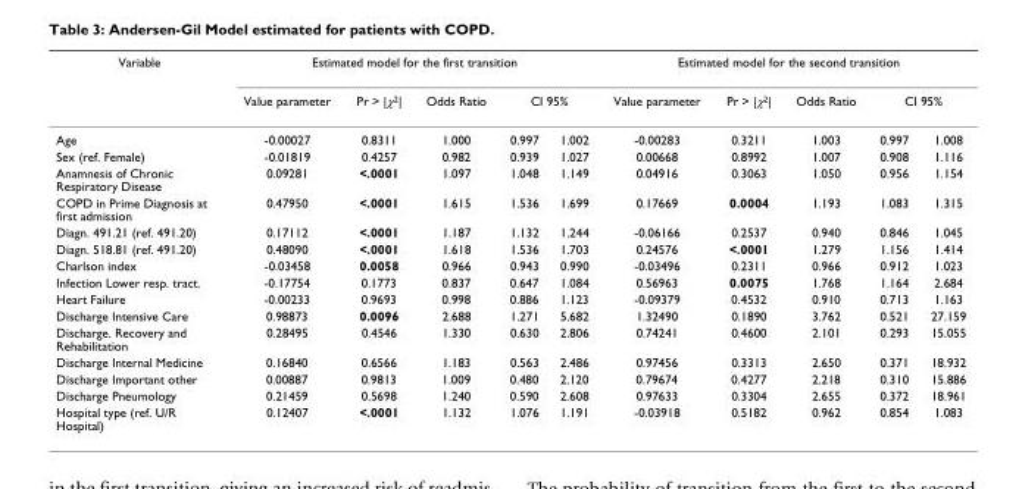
<table><thead><tr><td rowspan="3">Variable Age</td><td colspan="5">Estimated model for the first transition</td><td colspan="5">Estimated model for the second transition</td></tr><tr><td rowspan="2">Value parameter -0.00027</td><td rowspan="2">Pr &gt; |χ<sup>2</sup>| 0.8311</td><td rowspan="2">Odds Ratio 1.000</td><td colspan="2">CI 95%</td><td rowspan="2">Value parameter -0.00283</td><td rowspan="2">Pr &gt; |χ<sup>2</sup>| 0.3211</td><td rowspan="2">Odds Ratio 1.003</td><td colspan="2">CI 95%</td></tr><tr><td>0.997</td><td>1.002</td><td>0.997</td><td>1.008</td></tr></thead><tbody><tr><td>Sex (ref. Female)</td><td>-0.01819</td><td>0.4257</td><td>0.982</td><td>0.939</td><td>1.027</td><td>0.00668</td><td>0.8992</td><td>1.007</td><td>0.908</td><td>1.116</td></tr><tr><td>Anamnesis of Chronic Respiratory Disease</td><td>0.09281</td><td>&lt;.0001</td><td>1.097</td><td>1.048</td><td>1.149</td><td>0.04916</td><td>0.3063</td><td>1.050</td><td>0.956</td><td>1.154</td></tr><tr><td>COPD in Prime Diagnosis at first admission</td><td>0.47950</td><td>&lt;.0001</td><td>1.615</td><td>1.536</td><td>1.699</td><td>0.17669</td><td>0.0004</td><td>1.193</td><td>1.083</td><td>1.315</td></tr><tr><td>Diagn. 491.21 (ref. 491.20)</td><td>0.17112</td><td>&lt;.0001</td><td>1.187</td><td>1.132</td><td>1.244</td><td>-0.06166</td><td>0.2537</td><td>0.940</td><td>0.846</td><td>1.045</td></tr><tr><td>Diagn. 518.81 (ref. 491.20)</td><td>0.48090</td><td>&lt;.0001</td><td>1.618</td><td>1.536</td><td>1.703</td><td>0.24576</td><td>&lt;.0001</td><td>1.279</td><td>1.156</td><td>1.414</td></tr><tr><td>Charlson index</td><td>-0.03458</td><td>0.0058</td><td>0.966</td><td>0.943</td><td>0.990</td><td>-0.03496</td><td>0.2311</td><td>0.966</td><td>0.912</td><td>1.023</td></tr><tr><td>Infection Lower resp. tract.</td><td>-0.17754</td><td>0.1773</td><td>0.837</td><td>0.647</td><td>1.084</td><td>0.56963</td><td>0.0075</td><td>1.768</td><td>1.164</td><td>2.684</td></tr><tr><td>Heart Failure</td><td>-0.00233</td><td>0.9693</td><td>0.998</td><td>0.886</td><td>1.123</td><td>-0.09379</td><td>0.4532</td><td>0.910</td><td>0.713</td><td>1.163</td></tr><tr><td>Discharge Intensive Care</td><td>0.98873</td><td>0.0096</td><td>2.688</td><td>1.271</td><td>5.682</td><td>1.32490</td><td>0.1890</td><td>3.762</td><td>0.521</td><td>27.159</td></tr><tr><td>Discharge. Recovery and Rehabilitation</td><td>0.28495</td><td>0.4546</td><td>1.330</td><td>0.630</td><td>2.806</td><td>0.74241</td><td>0.4600</td><td>2.101</td><td>0.293</td><td>15.055</td></tr><tr><td>Discharge Internal Medicine</td><td>0.16840</td><td>0.6566</td><td>1.183</td><td>0.563</td><td>2.486</td><td>0.97456</td><td>0.3313</td><td>2.650</td><td>0.371</td><td>18.932</td></tr><tr><td>Discharge Important other</td><td>0.00887</td><td>0.9813</td><td>1.009</td><td>0.480</td><td>2.120</td><td>0.79674</td><td>0.4277</td><td>2.218</td><td>0.310</td><td>15.886</td></tr><tr><td>Discharge Pneumology</td><td>0.21459</td><td>0.5698</td><td>1.240</td><td>0.590</td><td>2.608</td><td>0.97633</td><td>0.3304</td><td>2.655</td><td>0.372</td><td>18.961</td></tr><tr><td>Hospital type (ref. U/R Hospital)</td><td>0.12407</td><td>&lt;.0001</td><td>1.132</td><td>1.076</td><td>1.191</td><td>-0.03918</td><td>0.5182</td><td>0.962</td><td>0.854</td><td>1.083</td></tr></tbody></table>